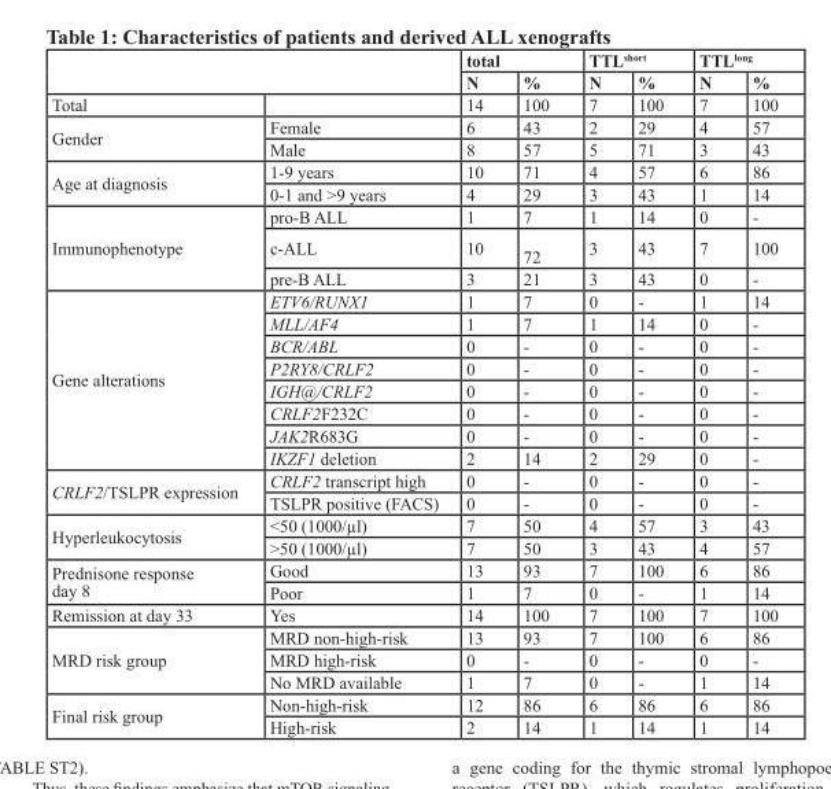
<table><thead><tr><td rowspan="2"></td><td rowspan="2"></td><td colspan="2">total</td><td colspan="2">TTL<sup>short</sup></td><td colspan="2">TTL<sup>long</sup></td></tr><tr><td>N</td><td>%</td><td>N</td><td>%</td><td>N</td><td>%</td></tr></thead><tbody><tr><td>Total</td><td></td><td>14</td><td>100</td><td>7</td><td>100</td><td>7</td><td>100</td></tr><tr><td rowspan="2">Gender</td><td>Female</td><td>6</td><td>43</td><td>2</td><td>29</td><td>4</td><td>57</td></tr><tr><td>Male</td><td>8</td><td>57</td><td>5</td><td>71</td><td>3</td><td>43</td></tr><tr><td rowspan="2">Age at diagnosis</td><td>1-9 years</td><td>10</td><td>71</td><td>4</td><td>57</td><td>6</td><td>86</td></tr><tr><td>0-1 and &gt;9 years</td><td>4</td><td>29</td><td>3</td><td>43</td><td>1</td><td>14</td></tr><tr><td rowspan="3">Immunophenotype</td><td>pro-B ALL</td><td>1</td><td>7</td><td>1</td><td>14</td><td>0</td><td>-</td></tr><tr><td>c-ALL</td><td>10</td><td>72</td><td>3</td><td>43</td><td>7</td><td>100</td></tr><tr><td>pre-B ALL</td><td>3</td><td>21</td><td>3</td><td>43</td><td>0</td><td>-</td></tr><tr><td rowspan="8">Gene alterations</td><td>ETV6/RUNX1</td><td>1</td><td>7</td><td>0</td><td>-</td><td>1</td><td>14</td></tr><tr><td>MLL/AF4</td><td>1</td><td>7</td><td>1</td><td>14</td><td>0</td><td>-</td></tr><tr><td>BCR/ABL</td><td>0</td><td>-</td><td>0</td><td>-</td><td>0</td><td>-</td></tr><tr><td>P2RY8/CRLF2</td><td>0</td><td>-</td><td>0</td><td>-</td><td>0</td><td>-</td></tr><tr><td>IGH@/CRLF2</td><td>0</td><td>-</td><td>0</td><td>-</td><td>0</td><td>-</td></tr><tr><td>CRLF2F232C</td><td>0</td><td>-</td><td>0</td><td>-</td><td>0</td><td>-</td></tr><tr><td>JAK2R683G</td><td>0</td><td>-</td><td>0</td><td>-</td><td>0</td><td>-</td></tr><tr><td>IKZF1 deletion</td><td>2</td><td>14</td><td>2</td><td>29</td><td>0</td><td>-</td></tr><tr><td rowspan="2">CRLF2/TSLPR expression</td><td>CRLF2 transcript high</td><td>0</td><td>-</td><td>0</td><td>-</td><td>0</td><td>-</td></tr><tr><td>TSLPR positive (FACS)</td><td>0</td><td>-</td><td>0</td><td>-</td><td>0</td><td>-</td></tr><tr><td rowspan="2">Hyperleukocytosis</td><td>&lt;50 (1000/µl)</td><td>7</td><td>50</td><td>4</td><td>57</td><td>3</td><td>43</td></tr><tr><td>&gt;50 (1000/µl)</td><td>7</td><td>50</td><td>3</td><td>43</td><td>4</td><td>57</td></tr><tr><td rowspan="2">Prednisone response day 8</td><td>Good</td><td>13</td><td>93</td><td>7</td><td>100</td><td>6</td><td>86</td></tr><tr><td>Poor</td><td>1</td><td>7</td><td>0</td><td>-</td><td>1</td><td>14</td></tr><tr><td>Remission at day 33</td><td>Yes</td><td>14</td><td>100</td><td>7</td><td>100</td><td>7</td><td>100</td></tr><tr><td rowspan="3">MRD risk group</td><td>MRD non-high-risk</td><td>13</td><td>93</td><td>7</td><td>100</td><td>6</td><td>86</td></tr><tr><td>MRD high-risk</td><td>0</td><td>-</td><td>0</td><td>-</td><td>0</td><td>-</td></tr><tr><td>No MRD available</td><td>1</td><td>7</td><td>0</td><td>-</td><td>1</td><td>14</td></tr><tr><td rowspan="2">Final risk group</td><td>Non-high-risk</td><td>12</td><td>86</td><td>6</td><td>86</td><td>6</td><td>86</td></tr><tr><td>High-risk</td><td>2</td><td>14</td><td>1</td><td>14</td><td>1</td><td>14</td></tr></tbody></table>